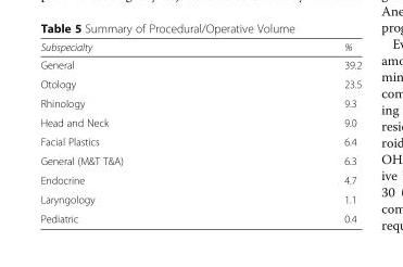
<table><thead><tr><td>Subspecialty</td><td>%</td></tr></thead><tbody><tr><td>General</td><td>39.2</td></tr><tr><td>Otology</td><td>23.5</td></tr><tr><td>Rhinology</td><td>9.3</td></tr><tr><td>Head and Neck</td><td>9.0</td></tr><tr><td>Facial Plastics</td><td>6.4</td></tr><tr><td>General (M&amp;T T&amp;A)</td><td>6.3</td></tr><tr><td>Endocrine</td><td>4.7</td></tr><tr><td>Laryngology</td><td>1.1</td></tr><tr><td>Pediatric</td><td>0.4</td></tr></tbody></table>